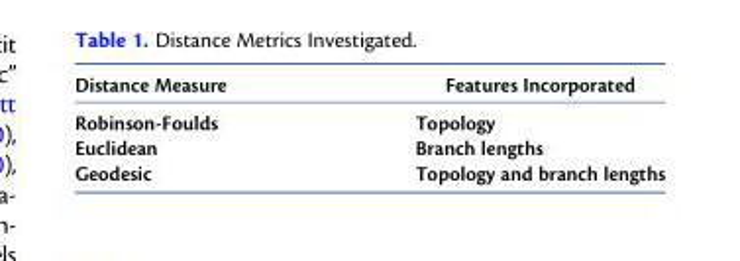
<table><thead><tr><td>Distance Measure</td><td>Features Incorporated</td></tr></thead><tbody><tr><td>Robinson-Foulds</td><td>Topology</td></tr><tr><td>Euclidean</td><td>Branch lengths</td></tr><tr><td>Geodesic</td><td>Topology and branch lengths</td></tr></tbody></table>